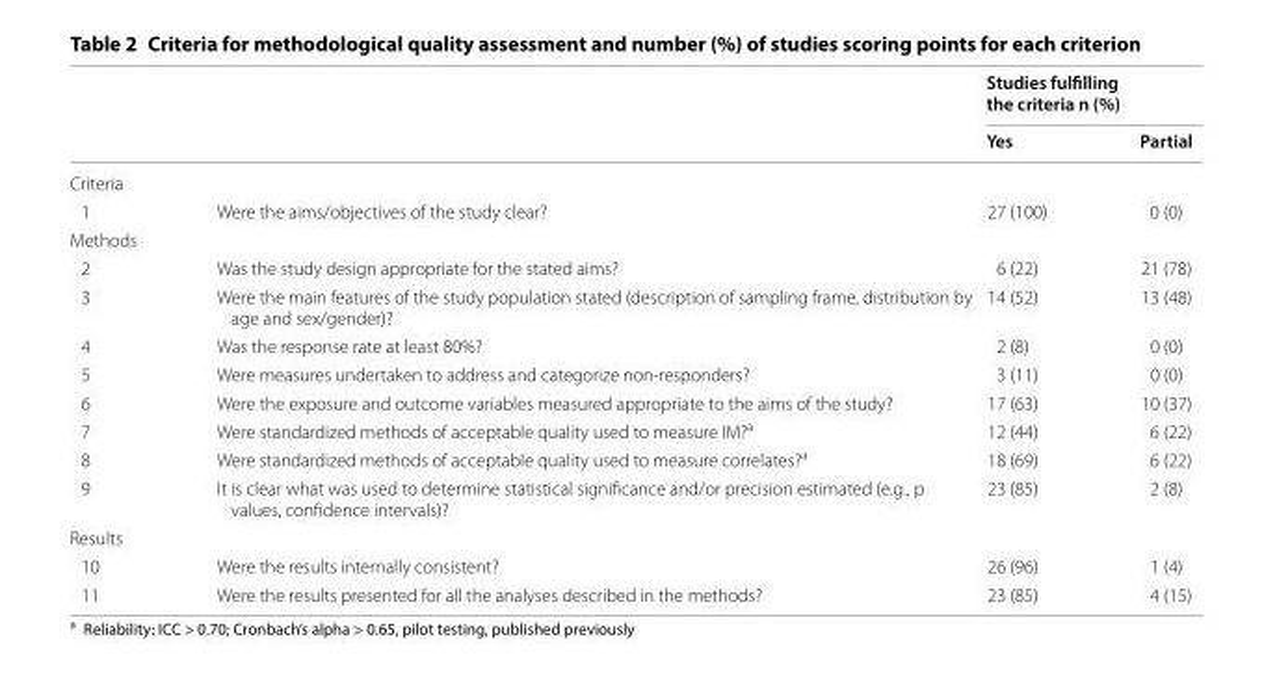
<table><thead><tr><td rowspan="2"></td><td rowspan="2"></td><td colspan="2">Studies fulfilling the criteria n (%)</td></tr><tr><td>Yes</td><td>Partial</td></tr></thead><tbody><tr><td colspan="4">Criteria</td></tr><tr><td>1</td><td>Were the aims/objectives of the study clear?</td><td>27 (100)</td><td>0 (0)</td></tr><tr><td colspan="4">Methods</td></tr><tr><td>2</td><td>Was the study design appropriate for the stated aims?</td><td>6 (22)</td><td>21 (78)</td></tr><tr><td>3</td><td>Were the main features of the study population stated (description of sampling frame, distribution by age and sex/gender)?</td><td>14 (52)</td><td>13 (48)</td></tr><tr><td>4</td><td>Was the response rate at least 80%?</td><td>2 (8)</td><td>0 (0)</td></tr><tr><td>5</td><td>Were measures undertaken to address and categorize non-responders?</td><td>3 (11)</td><td>0 (0)</td></tr><tr><td>6</td><td>Were the exposure and outcome variables measured appropriate to the aims of the study?</td><td>17 (63)</td><td>10 (37)</td></tr><tr><td>7</td><td>Were standardized methods of acceptable quality used to measure IM?<sup>a</sup></td><td>12 (44)</td><td>6 (22)</td></tr><tr><td>8</td><td>Were standardized methods of acceptable quality used to measure correlates?<sup>a</sup></td><td>18 (69)</td><td>6 (22)</td></tr><tr><td>9</td><td>It is clear what was used to determine statistical significance and/or precision estimated (e.g., p values, confidence intervals)?</td><td>23 (85)</td><td>2 (8)</td></tr><tr><td colspan="4">Results</td></tr><tr><td>10</td><td>Were the results internally consistent?</td><td>26 (96)</td><td>1 (4)</td></tr><tr><td>11</td><td>Were the results presented for all the analyses described in the methods?</td><td>23 (85)</td><td>4 (15)</td></tr></tbody></table>